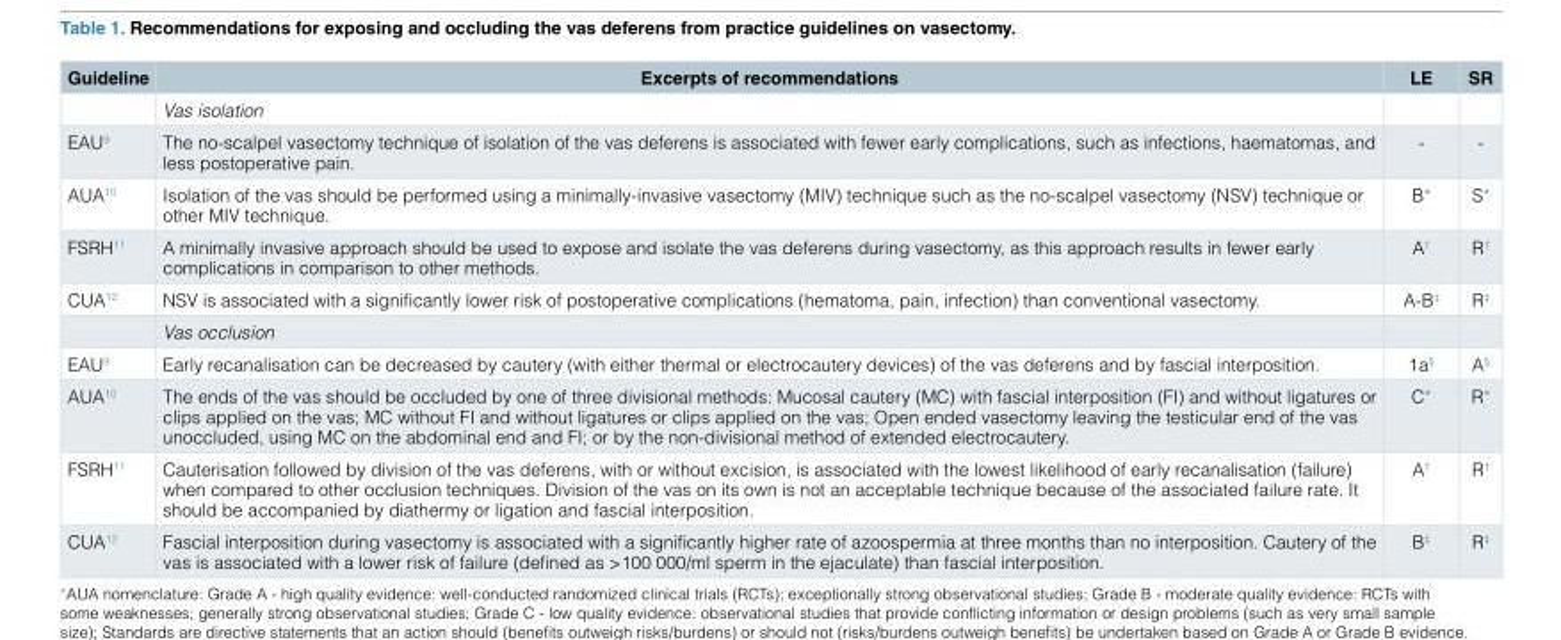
<table><thead><tr><td>Guideline</td><td>Excerpts of recommendations</td><td>LE</td><td>SR</td></tr></thead><tbody><tr><td></td><td>Vas isolation</td><td></td><td></td></tr><tr><td>EAU<sup>9</sup></td><td>The no-scalpel vasectomy technique of isolation of the vas deferens is associated with fewer early complications, such as infections, haematomas, and less postoperative pain.</td><td>-</td><td>-</td></tr><tr><td>AUA<sup>10</sup></td><td>Isolation of the vas should be performed using a minimally-invasive vasectomy (MIV) technique such as the no-scalpel vasectomy (NSV) technique or other MIV technique.</td><td>B*</td><td>S*</td></tr><tr><td>FSRH<sup>11</sup></td><td>A minimally invasive approach should be used to expose and isolate the vas deferens during vasectomy, as this approach results in fewer early complications in comparison to other methods.</td><td>A<sup>†</sup></td><td>R<sup>†</sup></td></tr><tr><td rowspan="2">CUA<sup>12</sup></td><td>NSV is associated with a significantly lower risk of postoperative complications (hematoma, pain, infection) than conventional vasectomy.</td><td>A-B<sup>‡</sup></td><td>R<sup>‡</sup></td></tr><tr><td>Vas occlusion</td><td></td><td></td></tr><tr><td>EAU<sup>9</sup></td><td>Early recanalisation can be decreased by cautery (with either thermal or electrocautery devices) of the vas deferens and by fascial interposition.</td><td>1a<sup>§</sup></td><td>A<sup>§</sup></td></tr><tr><td>AUA<sup>10</sup></td><td>The ends of the vas should be occluded by one of three divisional methods: Mucosal cautery (MC) with fascial interposition (FI) and without ligatures or clips applied on the vas; MC without FI and without ligatures or clips applied on the vas; Open ended vasectomy leaving the testicular end of the vas unoccluded, using MC on the abdominal end and FI; or by the non-divisional method of extended electrocautery.</td><td>C*</td><td>R*</td></tr><tr><td>FSRH<sup>11</sup></td><td>Cauterisation followed by division of the vas deferens, with or without excision, is associated with the lowest likelihood of early recanalisation (failure) when compared to other occlusion techniques. Division of the vas on its own is not an acceptable technique because of the associated failure rate. It should be accompanied by diathermy or ligation and fascial interposition.</td><td>A<sup>†</sup></td><td>R<sup>†</sup></td></tr><tr><td>CUA<sup>12</sup></td><td>Fascial interposition during vasectomy is associated with a significantly higher rate of azoospermia at three months than no interposition. Cautery of the vas is associated with a lower risk of failure (defined as &gt;100 000/ml sperm in the ejaculate) than fascial interposition.</td><td>B<sup>‡</sup></td><td>R<sup>‡</sup></td></tr></tbody></table>